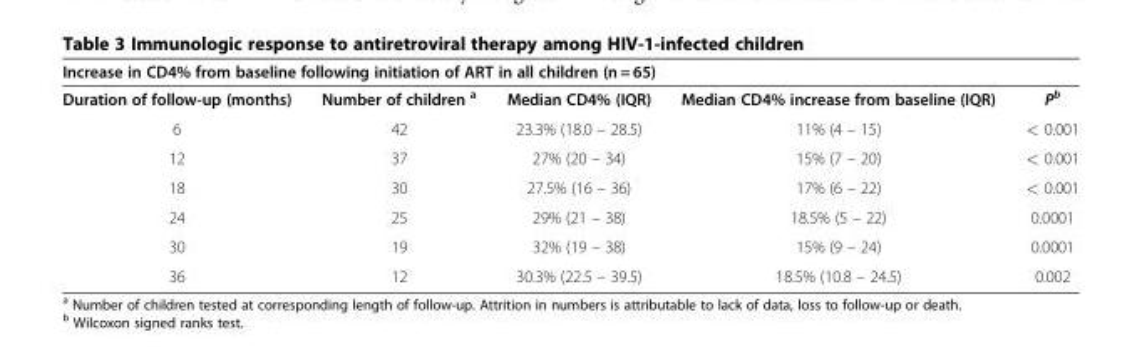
<table><thead><tr><td colspan="5">Increase in CD4% from baseline following initiation of ART in all children (n = 65)</td></tr><tr><td>Duration of follow-up (months)</td><td>Number of children <sup>a</sup></td><td>Median CD4% (IQR)</td><td>Median CD4% increase from baseline (IQR)</td><td>P<sup>b</sup></td></tr></thead><tbody><tr><td>6</td><td>42</td><td>23.3% (18.0 – 28.5)</td><td>11% (4 – 15)</td><td>&lt; 0.001</td></tr><tr><td>12</td><td>37</td><td>27% (20 – 34)</td><td>15% (7 – 20)</td><td>&lt; 0.001</td></tr><tr><td>18</td><td>30</td><td>27.5% (16 – 36)</td><td>17% (6 – 22)</td><td>&lt; 0.001</td></tr><tr><td>24</td><td>25</td><td>29% (21 – 38)</td><td>18.5% (5 – 22)</td><td>0.0001</td></tr><tr><td>30</td><td>19</td><td>32% (19 – 38)</td><td>15% (9 – 24)</td><td>0.0001</td></tr><tr><td>36</td><td>12</td><td>30.3% (22.5 – 39.5)</td><td>18.5% (10.8 – 24.5)</td><td>0.002</td></tr></tbody></table>